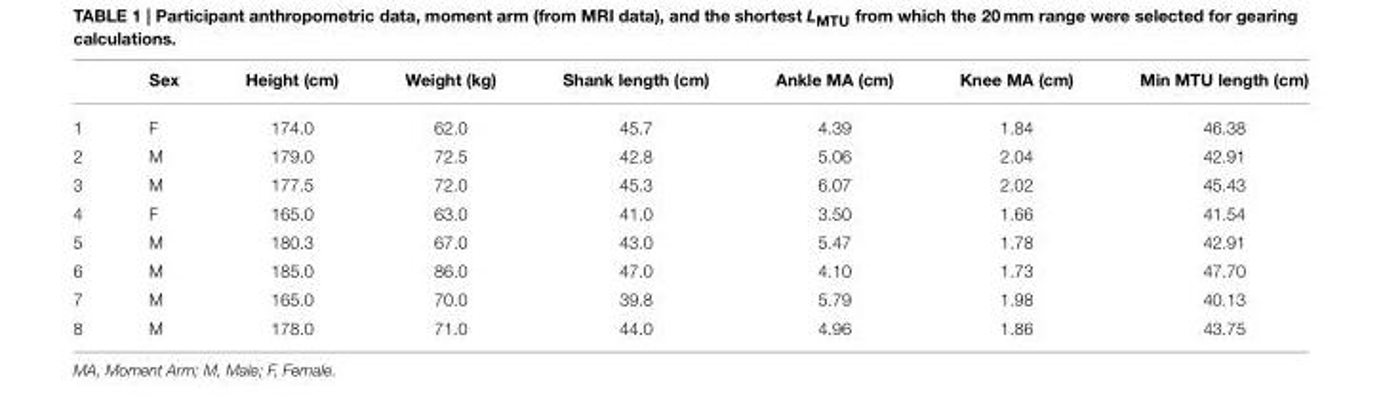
<table><thead><tr><td></td><td>Sex</td><td>Height (cm)</td><td>Weight (kg)</td><td>Shank length (cm)</td><td>Ankle MA (cm)</td><td>Knee MA (cm)</td><td>Min MTU length (cm)</td></tr></thead><tbody><tr><td>1</td><td>F</td><td>174.0</td><td>62.0</td><td>45.7</td><td>4.39</td><td>1.84</td><td>46.38</td></tr><tr><td>2</td><td>M</td><td>179.0</td><td>72.5</td><td>42.8</td><td>5.06</td><td>2.04</td><td>42.91</td></tr><tr><td>3</td><td>M</td><td>177.5</td><td>72.0</td><td>45.3</td><td>6.07</td><td>2.02</td><td>45.43</td></tr><tr><td>4</td><td>F</td><td>165.0</td><td>63.0</td><td>41.0</td><td>3.50</td><td>1.66</td><td>41.54</td></tr><tr><td>5</td><td>M</td><td>180.3</td><td>67.0</td><td>43.0</td><td>5.47</td><td>1.78</td><td>42.91</td></tr><tr><td>6</td><td>M</td><td>185.0</td><td>86.0</td><td>47.0</td><td>4.10</td><td>1.73</td><td>47.70</td></tr><tr><td>7</td><td>M</td><td>165.0</td><td>70.0</td><td>39.8</td><td>5.79</td><td>1.98</td><td>40.13</td></tr><tr><td>8</td><td>M</td><td>178.0</td><td>71.0</td><td>44.0</td><td>4.96</td><td>1.86</td><td>43.75</td></tr></tbody></table>